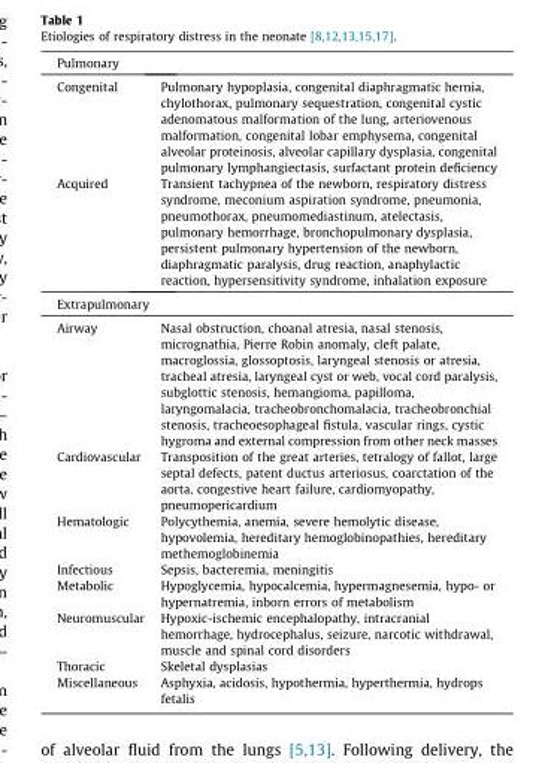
<table><thead><tr><td>Pulmonary</td><td></td></tr></thead><tbody><tr><td>Congenital</td><td>Pulmonary hypoplasia, congenital diaphragmatic hernia, chylothorax, pulmonary sequestration, congenital cystic adenomatous malformation of the lung, arteriovenous malformation, congenital lobar emphysema, congenital alveolar proteinosis, alveolar capillary dysplasia, congenital pulmonary lymphangiectasis, surfactant protein deficiency</td></tr><tr><td>Acquired</td><td>Transient tachypnea of the newborn, respiratory distress syndrome, meconium aspiration syndrome, pneumonia, pneumothorax, pneumomediastinum, atelectasis, pulmonary hemorrhage, bronchopulmonary dysplasia, persistent pulmonary hypertension of the newborn, diaphragmatic paralysis, drug reaction, anaphylactic reaction, hypersensitivity syndrome, inhalation exposure</td></tr><tr><td colspan="2">Extrapulmonary</td></tr><tr><td>Airway</td><td>Nasal obstruction, choanal atresia, nasal stenosis, micrognathia, Pierre Robin anomaly, cleft palate, macroglossia, glossoptosis, laryngeal stenosis or atresia, tracheal atresia, laryngeal cyst or web, vocal cord paralysis, subglottic stenosis, hemangioma, papilloma, laryngomalacia, tracheobronchomalacia, tracheobronchial stenosis, tracheoesophageal fistula, vascular rings, cystic hygroma and external compression from other neck masses</td></tr><tr><td>Cardiovascular</td><td>Transposition of the great arteries, tetralogy of fallot, large septal defects, patent ductus arteriosus, coarctation of the aorta, congestive heart failure, cardiomyopathy, pneumopericardium</td></tr><tr><td>Hematologic</td><td>Polycythemia, anemia, severe hemolytic disease, hypovolemia, hereditary hemoglobinopathies, hereditary methemoglobinemia</td></tr><tr><td>Infectious</td><td>Sepsis, bacteremia, meningitis</td></tr><tr><td>Metabolic</td><td>Hypoglycemia, hypocalcemia, hypermagnesemia, hypo- or hypernatremia, inborn errors of metabolism</td></tr><tr><td>Neuromuscular</td><td>Hypoxic-ischemic encephalopathy, intracranial hemorrhage, hydrocephalus, seizure, narcotic withdrawal, muscle and spinal cord disorders</td></tr><tr><td>Thoracic</td><td>Skeletal dysplasias</td></tr><tr><td>Miscellaneous</td><td>Asphyxia, acidosis, hypothermia, hyperthermia, hydrops fetalis</td></tr></tbody></table>